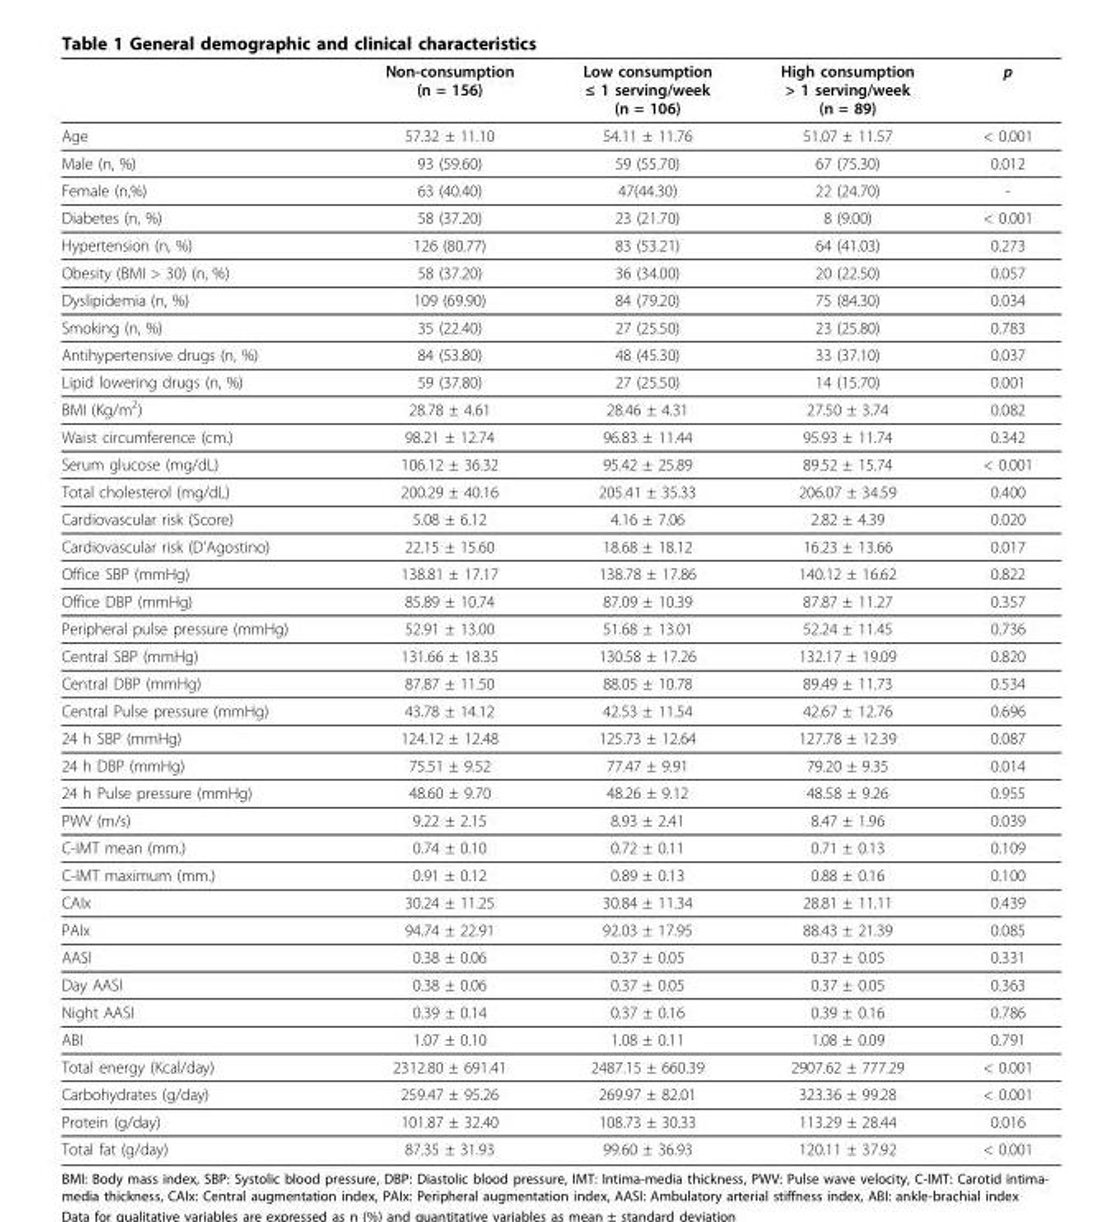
<table><thead><tr><td></td><td>Non-consumption (n = 156)</td><td>Low consumption ≤ 1 serving/week (n = 106)</td><td>High consumption &gt; 1 serving/week (n = 89)</td><td>p</td></tr></thead><tbody><tr><td>Age</td><td>57.32 ± 11.10</td><td>54.11 ± 11.76</td><td>51.07 ± 11.57</td><td>&lt; 0.001</td></tr><tr><td>Male (n, %)</td><td>93 (59.60)</td><td>59 (55.70)</td><td>67 (75.30)</td><td>0.012</td></tr><tr><td>Female (n,%)</td><td>63 (40.40)</td><td>47(44.30)</td><td>22 (24.70)</td><td>-</td></tr><tr><td>Diabetes (n, %)</td><td>58 (37.20)</td><td>23 (21.70)</td><td>8 (9.00)</td><td>&lt; 0.001</td></tr><tr><td>Hypertension (n, %)</td><td>126 (80.77)</td><td>83 (53.21)</td><td>64 (41.03)</td><td>0.273</td></tr><tr><td>Obesity (BMI &gt; 30) (n, %)</td><td>58 (37.20)</td><td>36 (34.00)</td><td>20 (22.50)</td><td>0.057</td></tr><tr><td>Dyslipidemia (n, %)</td><td>109 (69.90)</td><td>84 (79.20)</td><td>75 (84.30)</td><td>0.034</td></tr><tr><td>Smoking (n, %)</td><td>35 (22.40)</td><td>27 (25.50)</td><td>23 (25.80)</td><td>0.783</td></tr><tr><td>Antihypertensive drugs (n, %)</td><td>84 (53.80)</td><td>48 (45.30)</td><td>33 (37.10)</td><td>0.037</td></tr><tr><td>Lipid lowering drugs (n, %)</td><td>59 (37.80)</td><td>27 (25.50)</td><td>14 (15.70)</td><td>0.001</td></tr><tr><td>BMI (Kg/m<sup>2</sup>)</td><td>28.78 ± 4.61</td><td>28.46 ± 4.31</td><td>27.50 ± 3.74</td><td>0.082</td></tr><tr><td>Waist circumference (cm.)</td><td>98.21 ± 12.74</td><td>96.83 ± 11.44</td><td>95.93 ± 11.74</td><td>0.342</td></tr><tr><td>Serum glucose (mg/dL)</td><td>106.12 ± 36.32</td><td>95.42 ± 25.89</td><td>89.52 ± 15.74</td><td>&lt; 0.001</td></tr><tr><td>Total cholesterol (mg/dL)</td><td>200.29 ± 40.16</td><td>205.41 ± 35.33</td><td>206.07 ± 34.59</td><td>0.400</td></tr><tr><td>Cardiovascular risk (Score)</td><td>5.08 ± 6.12</td><td>4.16 ± 7.06</td><td>2.82 ± 4.39</td><td>0.020</td></tr><tr><td>Cardiovascular risk (D’Agostino)</td><td>22.15 ± 15.60</td><td>18.68 ± 18.12</td><td>16.23 ± 13.66</td><td>0.017</td></tr><tr><td>Office SBP (mmHg)</td><td>138.81 ± 17.17</td><td>138.78 ± 17.86</td><td>140.12 ± 16.62</td><td>0.822</td></tr><tr><td>Office DBP (mmHg)</td><td>85.89 ± 10.74</td><td>87.09 ± 10.39</td><td>87.87 ± 11.27</td><td>0.357</td></tr><tr><td>Peripheral pulse pressure (mmHg)</td><td>52.91 ± 13.00</td><td>51.68 ± 13.01</td><td>52.24 ± 11.45</td><td>0.736</td></tr><tr><td>Central SBP (mmHg)</td><td>131.66 ± 18.35</td><td>130.58 ± 17.26</td><td>132.17 ± 19.09</td><td>0.820</td></tr><tr><td>Central DBP (mmHg)</td><td>87.87 ± 11.50</td><td>88.05 ± 10.78</td><td>89.49 ± 11.73</td><td>0.534</td></tr><tr><td>Central Pulse pressure (mmHg)</td><td>43.78 ± 14.12</td><td>42.53 ± 11.54</td><td>42.67 ± 12.76</td><td>0.696</td></tr><tr><td>24 h SBP (mmHg)</td><td>124.12 ± 12.48</td><td>125.73 ± 12.64</td><td>127.78 ± 12.39</td><td>0.087</td></tr><tr><td>24 h DBP (mmHg)</td><td>75.51 ± 9.52</td><td>77.47 ± 9.91</td><td>79.20 ± 9.35</td><td>0.014</td></tr><tr><td>24 h Pulse pressure (mmHg)</td><td>48.60 ± 9.70</td><td>48.26 ± 9.12</td><td>48.58 ± 9.26</td><td>0.955</td></tr><tr><td>PWV (m/s)</td><td>9.22 ± 2.15</td><td>8.93 ± 2.41</td><td>8.47 ± 1.96</td><td>0.039</td></tr><tr><td>C-IMT mean (mm.)</td><td>0.74 ± 0.10</td><td>0.72 ± 0.11</td><td>0.71 ± 0.13</td><td>0.109</td></tr><tr><td>C-IMT maximum (mm.)</td><td>0.91 ± 0.12</td><td>0.89 ± 0.13</td><td>0.88 ± 0.16</td><td>0.100</td></tr><tr><td>CAIx</td><td>30.24 ± 11.25</td><td>30.84 ± 11.34</td><td>28.81 ± 11.11</td><td>0.439</td></tr><tr><td>PAIx</td><td>94.74 ± 22.91</td><td>92.03 ± 17.95</td><td>88.43 ± 21.39</td><td>0.085</td></tr><tr><td>AASI</td><td>0.38 ± 0.06</td><td>0.37 ± 0.05</td><td>0.37 ± 0.05</td><td>0.331</td></tr><tr><td>Day AASI</td><td>0.38 ± 0.06</td><td>0.37 ± 0.05</td><td>0.37 ± 0.05</td><td>0.363</td></tr><tr><td>Night AASI</td><td>0.39 ± 0.14</td><td>0.37 ± 0.16</td><td>0.39 ± 0.16</td><td>0.786</td></tr><tr><td>ABI</td><td>1.07 ± 0.10</td><td>1.08 ± 0.11</td><td>1.08 ± 0.09</td><td>0.791</td></tr><tr><td>Total energy (Kcal/day)</td><td>2312.80 ± 691.41</td><td>2487.15 ± 660.39</td><td>2907.62 ± 777.29</td><td>&lt; 0.001</td></tr><tr><td>Carbohydrates (g/day)</td><td>259.47 ± 95.26</td><td>269.97 ± 82.01</td><td>323.36 ± 99.28</td><td>&lt; 0.001</td></tr><tr><td>Protein (g/day)</td><td>101.87 ± 32.40</td><td>108.73 ± 30.33</td><td>113.29 ± 28.44</td><td>0.016</td></tr><tr><td>Total fat (g/day)</td><td>87.35 ± 31.93</td><td>99.60 ± 36.93</td><td>120.11 ± 37.92</td><td>&lt; 0.001</td></tr></tbody></table>